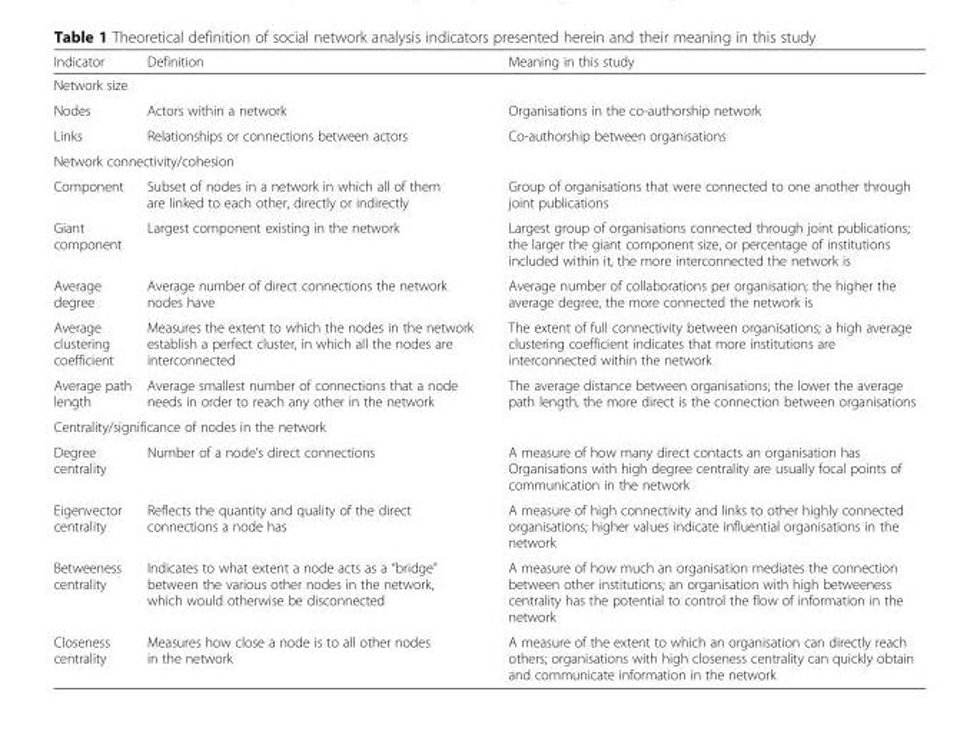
<table><thead><tr><td>Indicator</td><td>Definition</td><td>Meaning in this study</td></tr></thead><tbody><tr><td colspan="3">Network size</td></tr><tr><td>Nodes</td><td>Actors within a network</td><td>Organisations in the co-authorship network</td></tr><tr><td>Links</td><td>Relationships or connections between actors</td><td>Co-authorship between organisations</td></tr><tr><td colspan="3">Network connectivity/cohesion</td></tr><tr><td>Component</td><td>Subset of nodes in a network in which all of them are linked to each other, directly or indirectly</td><td>Group of organisations that were connected to one another through joint publications</td></tr><tr><td>Giant component</td><td>Largest component existing in the network</td><td>Largest group of organisations connected through joint publications; the larger the giant component size, or percentage of institutions included within it, the more interconnected the network is</td></tr><tr><td>Average degree</td><td>Average number of direct connections the network nodes have</td><td>Average number of collaborations per organisation; the higher the average degree, the more connected the network is</td></tr><tr><td>Average clustering coefficient</td><td>Measures the extent to which the nodes in the network establish a perfect cluster, in which all the nodes are interconnected</td><td>The extent of full connectivity between organisations; a high average clustering coefficient indicates that more institutions are interconnected within the network</td></tr><tr><td>Average path length</td><td>Average smallest number of connections that a node needs in order to reach any other in the network</td><td>The average distance between organisations; the lower the average path length, the more direct is the connection between organisations</td></tr><tr><td colspan="3">Centrality/significance of nodes in the network</td></tr><tr><td>Degree centrality</td><td>Number of a node’s direct connections</td><td>A measure of how many direct contacts an organisation has Organisations with high degree centrality are usually focal points of communication in the network</td></tr><tr><td>Eigenvector centrality</td><td>Reflects the quantity and quality of the direct connections a node has</td><td>A measure of high connectivity and links to other highly connected organisations; higher values indicate influential organisations in the network</td></tr><tr><td>Betweeness centrality</td><td>Indicates to what extent a node acts as a “bridge” between the various other nodes in the network, which would otherwise be disconnected</td><td>A measure of how much an organisation mediates the connection between other institutions; an organisation with high betweeness centrality has the potential to control the flow of information in the network</td></tr><tr><td>Closeness centrality</td><td>Measures how close a node is to all other nodes in the network</td><td>A measure of the extent to which an organisation can directly reach others; organisations with high closeness centrality can quickly obtain and communicate information in the network</td></tr></tbody></table>